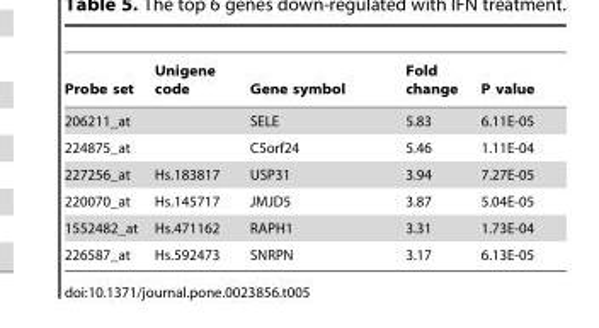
<table><thead><tr><td>Probe set</td><td>Unigene code</td><td>Gene symbol</td><td>Fold change</td><td>P value</td></tr></thead><tbody><tr><td>206211_at</td><td></td><td>SELE</td><td>5.83</td><td>6.11E-05</td></tr><tr><td>224875_at</td><td></td><td>C5orf24</td><td>5.46</td><td>1.11E-04</td></tr><tr><td>227256_at</td><td>Hs.183817</td><td>USP31</td><td>3.94</td><td>7.27E-05</td></tr><tr><td>220070_at</td><td>Hs.145717</td><td>JMJD5</td><td>3.87</td><td>5.04E-05</td></tr><tr><td>1552482_at</td><td>Hs.471162</td><td>RAPH1</td><td>3.31</td><td>1.73E-04</td></tr><tr><td>226587_at</td><td>Hs.592473</td><td>SNRPN</td><td>3.17</td><td>6.13E-05</td></tr></tbody></table>